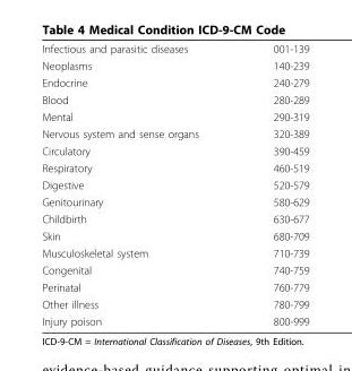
<table><tbody><tr><td>Infectious and parasitic diseases</td><td>001-139</td></tr><tr><td>Neoplasms</td><td>140-239</td></tr><tr><td>Endocrine</td><td>240-279</td></tr><tr><td>Blood</td><td>280-289</td></tr><tr><td>Mental</td><td>290-319</td></tr><tr><td>Nervous system and sense organs</td><td>320-389</td></tr><tr><td>Circulatory</td><td>390-459</td></tr><tr><td>Respiratory</td><td>460-519</td></tr><tr><td>Digestive</td><td>520-579</td></tr><tr><td>Genitourinary</td><td>580-629</td></tr><tr><td>Childbirth</td><td>630-677</td></tr><tr><td>Skin</td><td>680-709</td></tr><tr><td>Musculoskeletal system</td><td>710-739</td></tr><tr><td>Congenital</td><td>740-759</td></tr><tr><td>Perinatal</td><td>760-779</td></tr><tr><td>Other illness</td><td>780-799</td></tr><tr><td>Injury poison</td><td>800-999</td></tr></tbody></table>